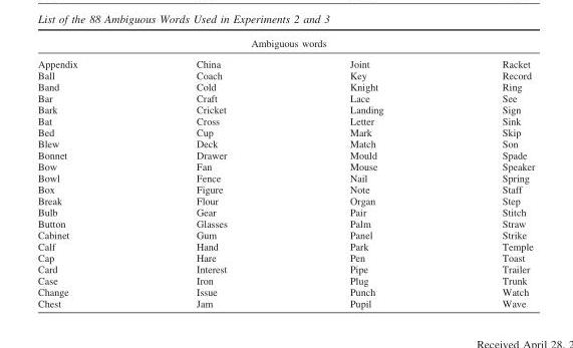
<table><thead><tr><td colspan="4">Ambiguous words</td></tr><tr><td>Appendix</td><td>China</td><td>Joint</td><td>Racket</td></tr></thead><tbody><tr><td>Ball</td><td>Coach</td><td>Key</td><td>Record</td></tr><tr><td>Band</td><td>Cold</td><td>Knight</td><td>Ring</td></tr><tr><td>Bar</td><td>Craft</td><td>Lace</td><td>See</td></tr><tr><td>Bark</td><td>Cricket</td><td>Landing</td><td>Sign</td></tr><tr><td>Bat</td><td>Cross</td><td>Letter</td><td>Sink</td></tr><tr><td>Bed</td><td>Cup</td><td>Mark</td><td>Skip</td></tr><tr><td>Blew</td><td>Deck</td><td>Match</td><td>Son</td></tr><tr><td>Bonnet</td><td>Drawer</td><td>Mould</td><td>Spade</td></tr><tr><td>Bow</td><td>Fan</td><td>Mouse</td><td>Speaker</td></tr><tr><td>Bowl</td><td>Fence</td><td>Nail</td><td>Spring</td></tr><tr><td>Box</td><td>Figure</td><td>Note</td><td>Staff</td></tr><tr><td>Break</td><td>Flour</td><td>Organ</td><td>Step</td></tr><tr><td>Bulb</td><td>Gear</td><td>Pair</td><td>Stitch</td></tr><tr><td>Button</td><td>Glasses</td><td>Palm</td><td>Straw</td></tr><tr><td>Cabinet</td><td>Gum</td><td>Panel</td><td>Strike</td></tr><tr><td>Calf</td><td>Hand</td><td>Park</td><td>Temple</td></tr><tr><td>Cap</td><td>Hare</td><td>Pen</td><td>Toast</td></tr><tr><td>Card</td><td>Interest</td><td>Pipe</td><td>Trailer</td></tr><tr><td>Case</td><td>Iron</td><td>Plug</td><td>Trunk</td></tr><tr><td>Change</td><td>Issue</td><td>Punch</td><td>Watch</td></tr><tr><td>Chest</td><td>Jam</td><td>Pupil</td><td>Wave</td></tr></tbody></table>